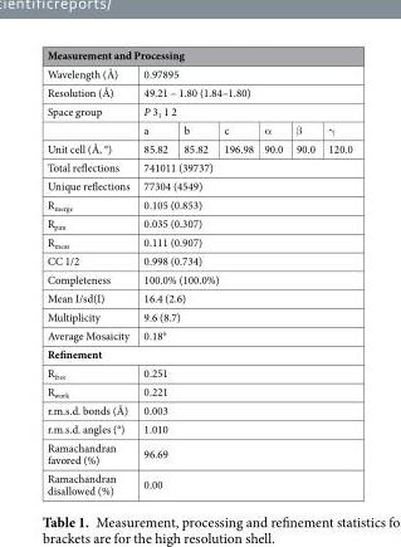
<table><thead><tr><td colspan="7">Measurement and Processing</td></tr></thead><tbody><tr><td>Wavelength (Å)</td><td colspan="6">0.97895</td></tr><tr><td>Resolution (Å)</td><td colspan="6">49.21 – 1.80 (1.84–1.80)</td></tr><tr><td rowspan="2">Space group</td><td colspan="6">P 3<sub>1</sub> 1 2</td></tr><tr><td>a</td><td>b</td><td>c</td><td>α</td><td>β</td><td>γ</td></tr><tr><td>Unit cell (Å, °)</td><td>85.82</td><td>85.82</td><td>196.98</td><td>90.0</td><td>90.0</td><td>120.0</td></tr><tr><td>Total reflections</td><td colspan="6">741011 (39737)</td></tr><tr><td>Unique reflections</td><td colspan="6">77304 (4549)</td></tr><tr><td>R<sub>merge</sub></td><td colspan="6">0.105 (0.853)</td></tr><tr><td>R<sub>pim</sub></td><td colspan="6">0.035 (0.307)</td></tr><tr><td>R<sub>meas</sub></td><td colspan="6">0.111 (0.907)</td></tr><tr><td>CC 1/2</td><td colspan="6">0.998 (0.734)</td></tr><tr><td>Completeness</td><td colspan="6">100.0% (100.0%)</td></tr><tr><td>Mean I/sd(I)</td><td colspan="6">16.4 (2.6)</td></tr><tr><td>Multiplicity</td><td colspan="6">9.6 (8.7)</td></tr><tr><td>Average Mosaicity</td><td colspan="6">0.18°</td></tr><tr><td colspan="7">Refinement</td></tr><tr><td>R<sub>free</sub></td><td colspan="6">0.251</td></tr><tr><td>R<sub>work</sub></td><td colspan="6">0.221</td></tr><tr><td>r.m.s.d. bonds (Å)</td><td colspan="6">0.003</td></tr><tr><td>r.m.s.d. angles (°)</td><td colspan="6">1.010</td></tr><tr><td>Ramachandran favored (%)</td><td colspan="6">96.69</td></tr><tr><td>Ramachandran disallowed (%)</td><td colspan="6">0.00</td></tr></tbody></table>